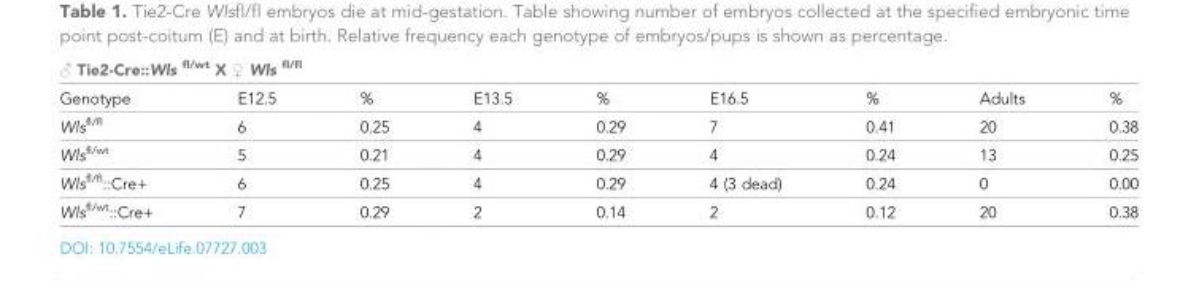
<table><thead><tr><td colspan="9">♂ Tie2-Cre::Wls <sup>fl/wt</sup> X ♀ Wls <sup>fl/fl</sup></td></tr><tr><td>Genotype</td><td>E12.5</td><td>%</td><td>E13.5</td><td>%</td><td>E16.5</td><td>%</td><td>Adults</td><td>%</td></tr></thead><tbody><tr><td>Wls<sup>fl/fl</sup></td><td>6</td><td>0.25</td><td>4</td><td>0.29</td><td>7</td><td>0.41</td><td>20</td><td>0.38</td></tr><tr><td>Wls<sup>fl/wt</sup></td><td>5</td><td>0.21</td><td>4</td><td>0.29</td><td>4</td><td>0.24</td><td>13</td><td>0.25</td></tr><tr><td>Wls<sup>fl/fl</sup>::Cre+</td><td>6</td><td>0.25</td><td>4</td><td>0.29</td><td>4 (3 dead)</td><td>0.24</td><td>0</td><td>0.00</td></tr><tr><td>Wls<sup>fl/wt</sup>::Cre+</td><td>7</td><td>0.29</td><td>2</td><td>0.14</td><td>2</td><td>0.12</td><td>20</td><td>0.38</td></tr></tbody></table>